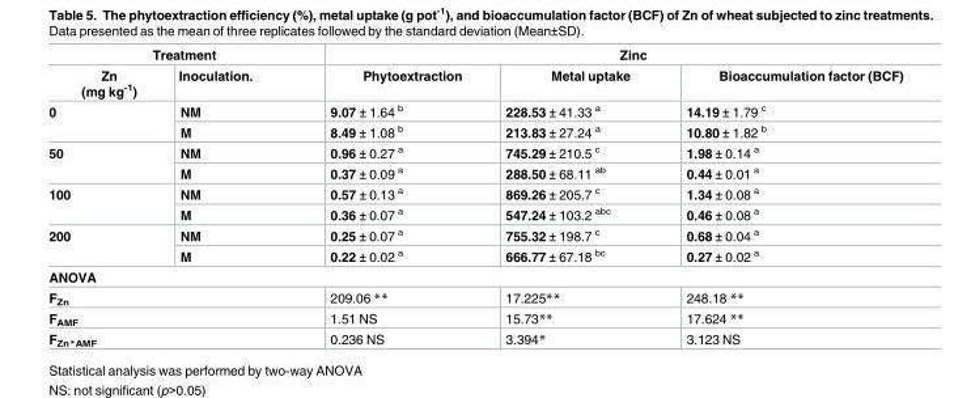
<table><thead><tr><td colspan="2">Treatment</td><td colspan="3">Zinc</td></tr><tr><td>Zn (mg kg<sup>-1</sup>)</td><td>Inoculation.</td><td>Phytoextraction</td><td>Metal uptake</td><td>Bioaccumulation factor (BCF)</td></tr></thead><tbody><tr><td rowspan="2">0</td><td>NM</td><td>9.07 ± 1.64 <sup>b</sup></td><td>228.53 ± 41.33 <sup>a</sup></td><td>14.19 ± 1.79 <sup>c</sup></td></tr><tr><td>M</td><td>8.49 ± 1.08 <sup>b</sup></td><td>213.83 ± 27.24 <sup>a</sup></td><td>10.80 ± 1.82 <sup>b</sup></td></tr><tr><td rowspan="2">50</td><td>NM</td><td>0.96 ± 0.27 <sup>a</sup></td><td>745.29 ± 210.5 <sup>c</sup></td><td>1.98 ± 0.14 <sup>a</sup></td></tr><tr><td>M</td><td>0.37 ± 0.09 <sup>a</sup></td><td>288.50 ± 68.11 <sup>ab</sup></td><td>0.44 ± 0.01 <sup>a</sup></td></tr><tr><td rowspan="2">100</td><td>NM</td><td>0.57 ± 0.13 <sup>a</sup></td><td>869.26 ± 205.7 <sup>c</sup></td><td>1.34 ± 0.08 <sup>a</sup></td></tr><tr><td>M</td><td>0.36 ± 0.07 <sup>a</sup></td><td>547.24 ± 103.2 <sup>abc</sup></td><td>0.46 ± 0.08 <sup>a</sup></td></tr><tr><td rowspan="2">200</td><td>NM</td><td>0.25 ± 0.07 <sup>a</sup></td><td>755.32 ± 198.7 <sup>c</sup></td><td>0.68 ± 0.04 <sup>a</sup></td></tr><tr><td>M</td><td>0.22 ± 0.02 <sup>a</sup></td><td>666.77 ± 67.18 <sup>bc</sup></td><td>0.27 ± 0.02 <sup>a</sup></td></tr><tr><td colspan="5">ANOVA</td></tr><tr><td colspan="2">F<sub>Zn</sub></td><td>209.06 **</td><td>17.225**</td><td>248.18 **</td></tr><tr><td colspan="2">F<sub>AMF</sub></td><td>1.51 NS</td><td>15.73**</td><td>17.624 **</td></tr><tr><td colspan="2">F<sub>Zn*AMF</sub></td><td>0.236 NS</td><td>3.394*</td><td>3.123 NS</td></tr></tbody></table>